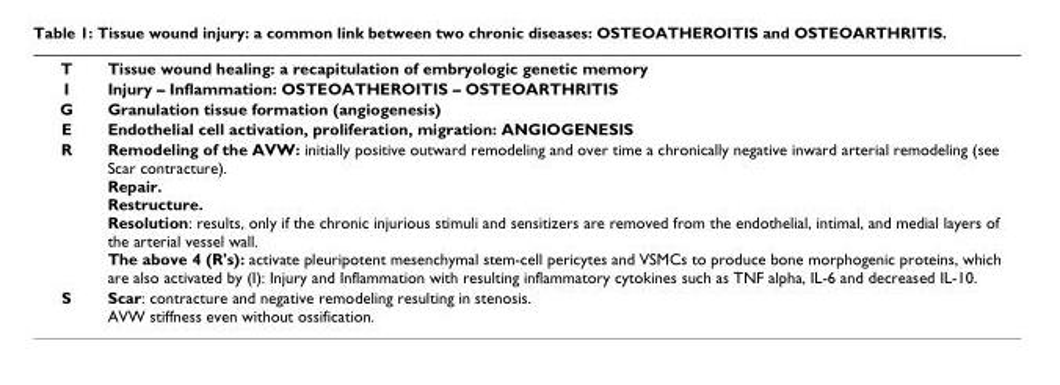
<table><tbody><tr><td>T</td><td>Tissue wound healing: a recapitulation of embryologic genetic memory</td></tr><tr><td>I</td><td>Injury – Inflammation: OSTEOATHEROITIS – OSTEOARTHRITIS</td></tr><tr><td>G</td><td>Granulation tissue formation (angiogenesis)</td></tr><tr><td>E</td><td>Endothelial cell activation, proliferation, migration: ANGIOGENESIS</td></tr><tr><td>R</td><td>Remodeling of the AVW: initially positive outward remodeling and over time a chronically negative inward arterial remodeling (see Scar contracture). Repair. Restructure. Resolution: results, only if the chronic injurious stimuli and sensitizers are removed from the endothelial, intimal, and medial layers of the arterial vessel wall. The above 4 (R&#x27;s): activate pleuripotent mesenchymal stem-cell pericytes and VSMCs to produce bone morphogenic proteins, which are also activated by (I): Injury and Inflammation with resulting inflammatory cytokines such as TNF alpha, IL-6 and decreased IL-10.</td></tr><tr><td>S</td><td>Scar: contracture and negative remodeling resulting in stenosis. AVW stiffness even without ossification.</td></tr></tbody></table>